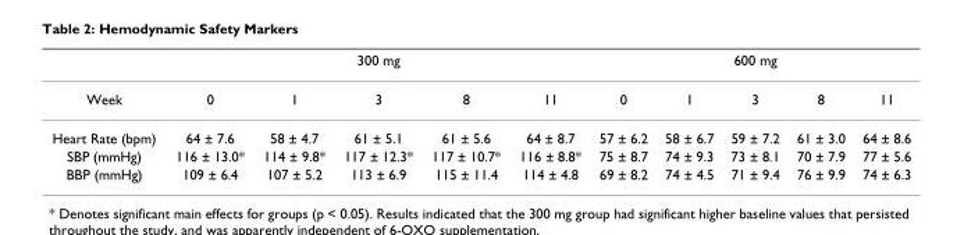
<table><thead><tr><td rowspan="2">Week</td><td colspan="5">300 mg</td><td colspan="5">600 mg</td></tr><tr><td>0</td><td>1</td><td>3</td><td>8</td><td>11</td><td>0</td><td>1</td><td>3</td><td>8</td><td>11</td></tr></thead><tbody><tr><td>Heart Rate (bpm)</td><td>64 ± 7.6</td><td>58 ± 4.7</td><td>61 ± 5.1</td><td>61 ± 5.6</td><td>64 ± 8.7</td><td>57 ± 6.2</td><td>58 ± 6.7</td><td>59 ± 7.2</td><td>61 ± 3.0</td><td>64 ± 8.6</td></tr><tr><td>SBP (mmHg)</td><td>116 ± 13.0*</td><td>114 ± 9.8*</td><td>117 ± 12.3*</td><td>117 ± 10.7*</td><td>116 ± 8.8*</td><td>75 ± 8.7</td><td>74 ± 9.3</td><td>73 ± 8.1</td><td>70 ± 7.9</td><td>77 ± 5.6</td></tr><tr><td>BBP (mmHg)</td><td>109 ± 6.4</td><td>107 ± 5.2</td><td>113 ± 6.9</td><td>115 ± 11.4</td><td>114 ± 4.8</td><td>69 ± 8.2</td><td>74 ± 4.5</td><td>71 ± 9.4</td><td>76 ± 9.9</td><td>74 ± 6.3</td></tr></tbody></table>